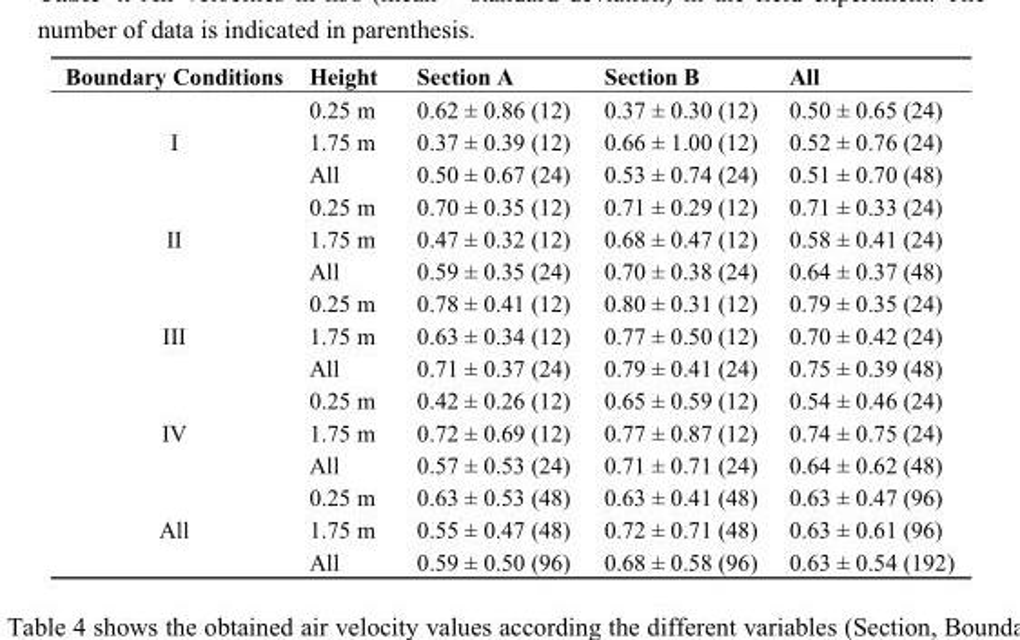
<table><thead><tr><td>Boundary Conditions</td><td>Height</td><td>Section A</td><td>Section B</td><td>All</td></tr></thead><tbody><tr><td rowspan="3">I</td><td>0.25 m</td><td>0.62 ± 0.86 (12)</td><td>0.37 ± 0.30 (12)</td><td>0.50 ± 0.65 (24)</td></tr><tr><td>1.75 m</td><td>0.37 ± 0.39 (12)</td><td>0.66 ± 1.00 (12)</td><td>0.52 ± 0.76 (24)</td></tr><tr><td>All</td><td>0.50 ± 0.67 (24)</td><td>0.53 ± 0.74 (24)</td><td>0.51 ± 0.70 (48)</td></tr><tr><td rowspan="3">II</td><td>0.25 m</td><td>0.70 ± 0.35 (12)</td><td>0.71 ± 0.29 (12)</td><td>0.71 ± 0.33 (24)</td></tr><tr><td>1.75 m</td><td>0.47 ± 0.32 (12)</td><td>0.68 ± 0.47 (12)</td><td>0.58 ± 0.41 (24)</td></tr><tr><td>All</td><td>0.59 ± 0.35 (24)</td><td>0.70 ± 0.38 (24)</td><td>0.64 ± 0.37 (48)</td></tr><tr><td rowspan="3">III</td><td>0.25 m</td><td>0.78 ± 0.41 (12)</td><td>0.80 ± 0.31 (12)</td><td>0.79 ± 0.35 (24)</td></tr><tr><td>1.75 m</td><td>0.63 ± 0.34 (12)</td><td>0.77 ± 0.50 (12)</td><td>0.70 ± 0.42 (24)</td></tr><tr><td>All</td><td>0.71 ± 0.37 (24)</td><td>0.79 ± 0.41 (24)</td><td>0.75 ± 0.39 (48)</td></tr><tr><td rowspan="3">IV</td><td>0.25 m</td><td>0.42 ± 0.26 (12)</td><td>0.65 ± 0.59 (12)</td><td>0.54 ± 0.46 (24)</td></tr><tr><td>1.75 m</td><td>0.72 ± 0.69 (12)</td><td>0.77 ± 0.87 (12)</td><td>0.74 ± 0.75 (24)</td></tr><tr><td>All</td><td>0.57 ± 0.53 (24)</td><td>0.71 ± 0.71 (24)</td><td>0.64 ± 0.62 (48)</td></tr><tr><td rowspan="3">All</td><td>0.25 m</td><td>0.63 ± 0.53 (48)</td><td>0.63 ± 0.41 (48)</td><td>0.63 ± 0.47 (96)</td></tr><tr><td>1.75 m</td><td>0.55 ± 0.47 (48)</td><td>0.72 ± 0.71 (48)</td><td>0.63 ± 0.61 (96)</td></tr><tr><td>All</td><td>0.59 ± 0.50 (96)</td><td>0.68 ± 0.58 (96)</td><td>0.63 ± 0.54 (192)</td></tr></tbody></table>